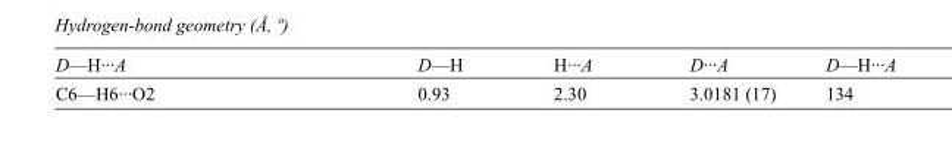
<table><tbody><tr><td>D—H···A</td><td>D—H</td><td>H···A</td><td>D···A</td><td>D—H···A</td></tr><tr><td>C6—H6···O2</td><td>0.93</td><td>2.30</td><td>3.0181 (17)</td><td>134</td></tr></tbody></table>